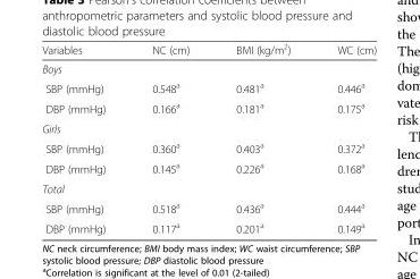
<table><thead><tr><td>Variables</td><td>NC (cm)</td><td>BMI (kg/m<sup>2</sup>)</td><td>WC (cm)</td></tr></thead><tbody><tr><td colspan="4">Boys</td></tr><tr><td>SBP (mmHg)</td><td>0.548<sup>a</sup></td><td>0.481<sup>a</sup></td><td>0.446<sup>a</sup></td></tr><tr><td>DBP (mmHg)</td><td>0.166<sup>a</sup></td><td>0.181<sup>a</sup></td><td>0.175<sup>a</sup></td></tr><tr><td colspan="4">Girls</td></tr><tr><td>SBP (mmHg)</td><td>0.360<sup>a</sup></td><td>0.403<sup>a</sup></td><td>0.372<sup>a</sup></td></tr><tr><td>DBP (mmHg)</td><td>0.145<sup>a</sup></td><td>0.226<sup>a</sup></td><td>0.168<sup>a</sup></td></tr><tr><td colspan="4">Total</td></tr><tr><td>SBP (mmHg)</td><td>0.518<sup>a</sup></td><td>0.436<sup>a</sup></td><td>0.444<sup>a</sup></td></tr><tr><td>DBP (mmHg)</td><td>0.117<sup>a</sup></td><td>0.201<sup>a</sup></td><td>0.149<sup>a</sup></td></tr></tbody></table>